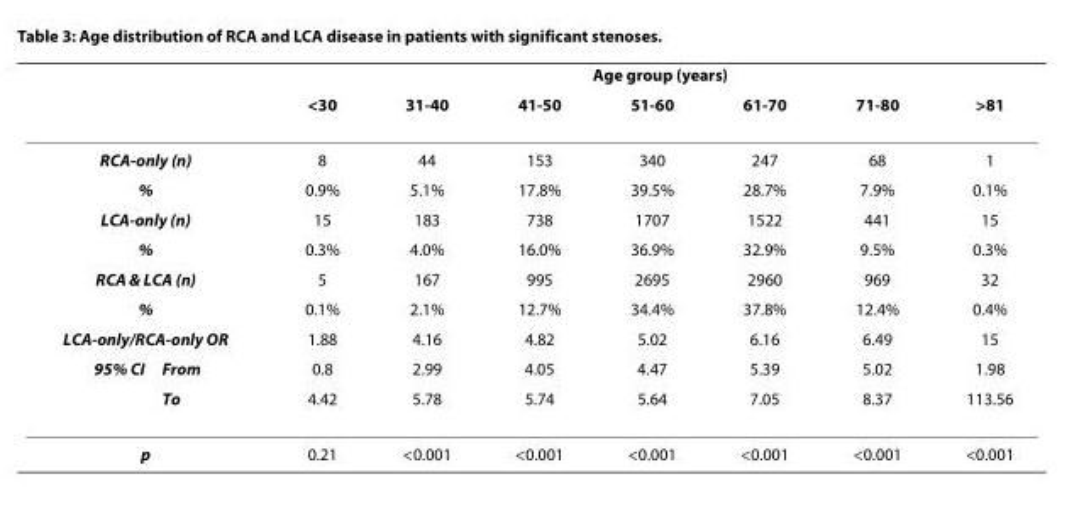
<table><thead><tr><td rowspan="2"></td><td rowspan="2"></td><td colspan="7">Age group (years)</td></tr><tr><td>&lt;30</td><td>31-40</td><td>41-50</td><td>51-60</td><td>61-70</td><td>71-80</td><td>&gt;81</td></tr></thead><tbody><tr><td colspan="2">RCA-only (n)</td><td>8</td><td>44</td><td>153</td><td>340</td><td>247</td><td>68</td><td>1</td></tr><tr><td colspan="2">%</td><td>0.9%</td><td>5.1%</td><td>17.8%</td><td>39.5%</td><td>28.7%</td><td>7.9%</td><td>0.1%</td></tr><tr><td colspan="2">LCA-only (n)</td><td>15</td><td>183</td><td>738</td><td>1707</td><td>1522</td><td>441</td><td>15</td></tr><tr><td colspan="2">%</td><td>0.3%</td><td>4.0%</td><td>16.0%</td><td>36.9%</td><td>32.9%</td><td>9.5%</td><td>0.3%</td></tr><tr><td colspan="2">RCA &amp; LCA (n)</td><td>5</td><td>167</td><td>995</td><td>2695</td><td>2960</td><td>969</td><td>32</td></tr><tr><td colspan="2">%</td><td>0.1%</td><td>2.1%</td><td>12.7%</td><td>34.4%</td><td>37.8%</td><td>12.4%</td><td>0.4%</td></tr><tr><td colspan="2">LCA-only/RCA-only OR</td><td>1.88</td><td>4.16</td><td>4.82</td><td>5.02</td><td>6.16</td><td>6.49</td><td>15</td></tr><tr><td rowspan="2">95% CI</td><td>From</td><td>0.8</td><td>2.99</td><td>4.05</td><td>4.47</td><td>5.39</td><td>5.02</td><td>1.98</td></tr><tr><td>To</td><td>4.42</td><td>5.78</td><td>5.74</td><td>5.64</td><td>7.05</td><td>8.37</td><td>113.56</td></tr><tr><td colspan="2">p</td><td>0.21</td><td>&lt;0.001</td><td>&lt;0.001</td><td>&lt;0.001</td><td>&lt;0.001</td><td>&lt;0.001</td><td>&lt;0.001</td></tr></tbody></table>